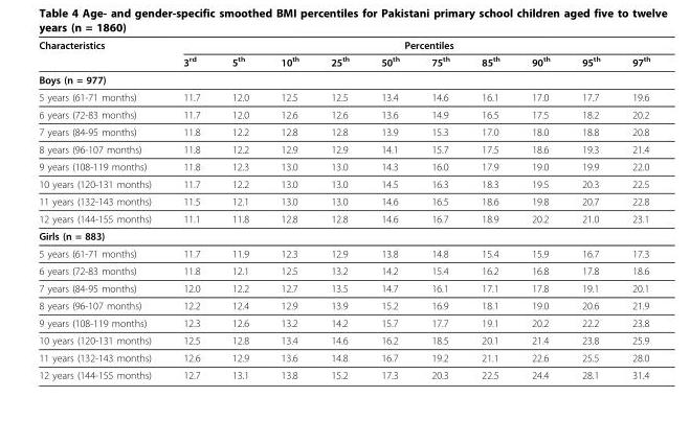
<table><thead><tr><td rowspan="2">Characteristics</td><td colspan="10">Percentiles</td></tr><tr><td>3<sup>rd</sup></td><td>5<sup>th</sup></td><td>10<sup>th</sup></td><td>25<sup>th</sup></td><td>50<sup>th</sup></td><td>75<sup>th</sup></td><td>85<sup>th</sup></td><td>90<sup>th</sup></td><td>95<sup>th</sup></td><td>97<sup>th</sup></td></tr></thead><tbody><tr><td colspan="11">Boys (n = 977)</td></tr><tr><td>5 years (61-71 months)</td><td>11.7</td><td>12.0</td><td>12.5</td><td>12.5</td><td>13.4</td><td>14.6</td><td>16.1</td><td>17.0</td><td>17.7</td><td>19.6</td></tr><tr><td>6 years (72-83 months)</td><td>11.7</td><td>12.0</td><td>12.6</td><td>12.6</td><td>13.6</td><td>14.9</td><td>16.5</td><td>17.5</td><td>18.2</td><td>20.2</td></tr><tr><td>7 years (84-95 months)</td><td>11.8</td><td>12.2</td><td>12.8</td><td>12.8</td><td>13.9</td><td>15.3</td><td>17.0</td><td>18.0</td><td>18.8</td><td>20.8</td></tr><tr><td>8 years (96-107 months)</td><td>11.8</td><td>12.2</td><td>12.9</td><td>12.9</td><td>14.1</td><td>15.7</td><td>17.5</td><td>18.6</td><td>19.3</td><td>21.4</td></tr><tr><td>9 years (108-119 months)</td><td>11.8</td><td>12.3</td><td>13.0</td><td>13.0</td><td>14.3</td><td>16.0</td><td>17.9</td><td>19.0</td><td>19.9</td><td>22.0</td></tr><tr><td>10 years (120-131 months)</td><td>11.7</td><td>12.2</td><td>13.0</td><td>13.0</td><td>14.5</td><td>16.3</td><td>18.3</td><td>19.5</td><td>20.3</td><td>22.5</td></tr><tr><td>11 years (132-143 months)</td><td>11.5</td><td>12.1</td><td>13.0</td><td>13.0</td><td>14.6</td><td>16.5</td><td>18.6</td><td>19.8</td><td>20.7</td><td>22.8</td></tr><tr><td>12 years (144-155 months)</td><td>11.1</td><td>11.8</td><td>12.8</td><td>12.8</td><td>14.6</td><td>16.7</td><td>18.9</td><td>20.2</td><td>21.0</td><td>23.1</td></tr><tr><td colspan="11">Girls (n = 883)</td></tr><tr><td>5 years (61-71 months)</td><td>11.7</td><td>11.9</td><td>12.3</td><td>12.9</td><td>13.8</td><td>14.8</td><td>15.4</td><td>15.9</td><td>16.7</td><td>17.3</td></tr><tr><td>6 years (72-83 months)</td><td>11.8</td><td>12.1</td><td>12.5</td><td>13.2</td><td>14.2</td><td>15.4</td><td>16.2</td><td>16.8</td><td>17.8</td><td>18.6</td></tr><tr><td>7 years (84-95 months)</td><td>12.0</td><td>12.2</td><td>12.7</td><td>13.5</td><td>14.7</td><td>16.1</td><td>17.1</td><td>17.8</td><td>19.1</td><td>20.1</td></tr><tr><td>8 years (96-107 months)</td><td>12.2</td><td>12.4</td><td>12.9</td><td>13.9</td><td>15.2</td><td>16.9</td><td>18.1</td><td>19.0</td><td>20.6</td><td>21.9</td></tr><tr><td>9 years (108-119 months)</td><td>12.3</td><td>12.6</td><td>13.2</td><td>14.2</td><td>15.7</td><td>17.7</td><td>19.1</td><td>20.2</td><td>22.2</td><td>23.8</td></tr><tr><td>10 years (120-131 months)</td><td>12.5</td><td>12.8</td><td>13.4</td><td>14.6</td><td>16.2</td><td>18.5</td><td>20.1</td><td>21.4</td><td>23.8</td><td>25.9</td></tr><tr><td>11 years (132-143 months)</td><td>12.6</td><td>12.9</td><td>13.6</td><td>14.8</td><td>16.7</td><td>19.2</td><td>21.1</td><td>22.6</td><td>25.5</td><td>28.0</td></tr><tr><td>12 years (144-155 months)</td><td>12.7</td><td>13.1</td><td>13.8</td><td>15.2</td><td>17.3</td><td>20.3</td><td>22.5</td><td>24.4</td><td>28.1</td><td>31.4</td></tr></tbody></table>